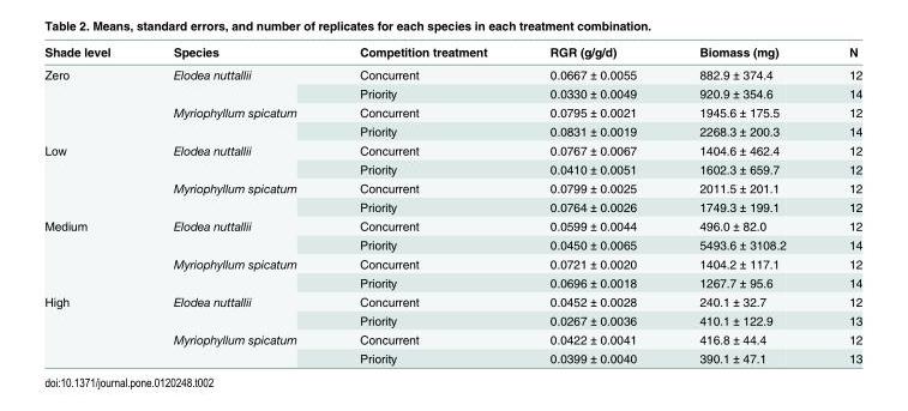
<table><thead><tr><td>Shade level</td><td>Species</td><td>Competition treatment</td><td>RGR (g/g/d)</td><td>Biomass (mg)</td><td>N</td></tr></thead><tbody><tr><td rowspan="4">Zero</td><td rowspan="2">Elodea nuttallii</td><td>Concurrent</td><td>0.0667 ± 0.0055</td><td>882.9 ± 374.4</td><td>12</td></tr><tr><td>Priority</td><td>0.0330 ± 0.0049</td><td>920.9 ± 354.6</td><td>14</td></tr><tr><td rowspan="2">Myriophyllum spicatum</td><td>Concurrent</td><td>0.0795 ± 0.0021</td><td>1945.6 ± 175.5</td><td>12</td></tr><tr><td>Priority</td><td>0.0831 ± 0.0019</td><td>2268.3 ± 200.3</td><td>14</td></tr><tr><td rowspan="4">Low</td><td rowspan="2">Elodea nuttallii</td><td>Concurrent</td><td>0.0767 ± 0.0067</td><td>1404.6 ± 462.4</td><td>12</td></tr><tr><td>Priority</td><td>0.0410 ± 0.0051</td><td>1602.3 ± 659.7</td><td>12</td></tr><tr><td rowspan="2">Myriophyllum spicatum</td><td>Concurrent</td><td>0.0799 ± 0.0025</td><td>2011.5 ± 201.1</td><td>12</td></tr><tr><td>Priority</td><td>0.0764 ± 0.0026</td><td>1749.3 ± 199.1</td><td>12</td></tr><tr><td rowspan="4">Medium</td><td rowspan="2">Elodea nuttallii</td><td>Concurrent</td><td>0.0599 ± 0.0044</td><td>496.0 ± 82.0</td><td>12</td></tr><tr><td>Priority</td><td>0.0450 ± 0.0065</td><td>5493.6 ± 3108.2</td><td>14</td></tr><tr><td rowspan="2">Myriophyllum spicatum</td><td>Concurrent</td><td>0.0721 ± 0.0020</td><td>1404.2 ± 117.1</td><td>12</td></tr><tr><td>Priority</td><td>0.0696 ± 0.0018</td><td>1267.7 ± 95.6</td><td>14</td></tr><tr><td rowspan="4">High</td><td rowspan="2">Elodea nuttallii</td><td>Concurrent</td><td>0.0452 ± 0.0028</td><td>240.1 ± 32.7</td><td>12</td></tr><tr><td>Priority</td><td>0.0267 ± 0.0036</td><td>410.1 ± 122.9</td><td>13</td></tr><tr><td rowspan="2">Myriophyllum spicatum</td><td>Concurrent</td><td>0.0422 ± 0.0041</td><td>416.8 ± 44.4</td><td>12</td></tr><tr><td>Priority</td><td>0.0399 ± 0.0040</td><td>390.1 ± 47.1</td><td>13</td></tr></tbody></table>